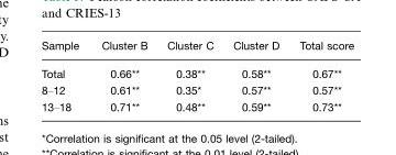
<table><thead><tr><td>Sample</td><td>Cluster B</td><td>Cluster C</td><td>Cluster D</td><td>Total score</td></tr></thead><tbody><tr><td>Total</td><td>0.66**</td><td>0.38**</td><td>0.58**</td><td>0.67**</td></tr><tr><td>8–12</td><td>0.61**</td><td>0.35*</td><td>0.57**</td><td>0.57**</td></tr><tr><td>13–18</td><td>0.71**</td><td>0.48**</td><td>0.59**</td><td>0.73**</td></tr></tbody></table>